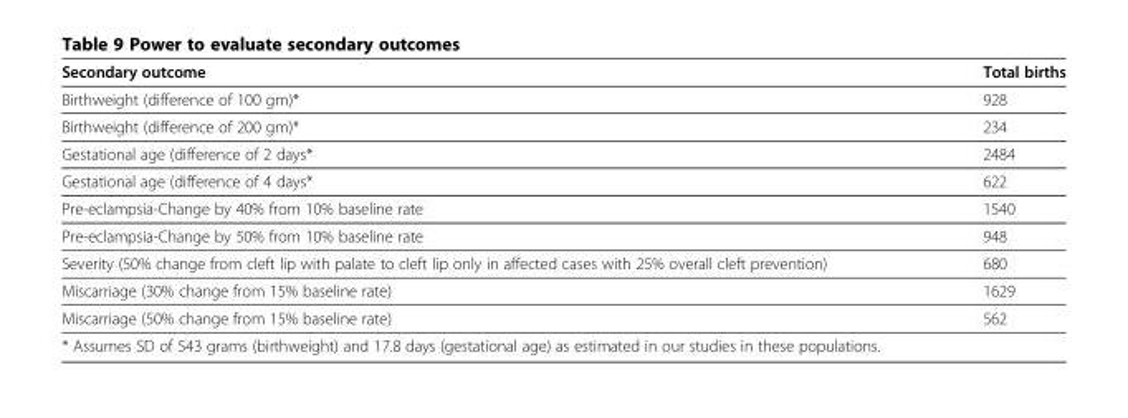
<table><thead><tr><td>Secondary outcome</td><td>Total births</td></tr></thead><tbody><tr><td>Birthweight (difference of 100 gm)*</td><td>928</td></tr><tr><td>Birthweight (difference of 200 gm)*</td><td>234</td></tr><tr><td>Gestational age (difference of 2 days*</td><td>2484</td></tr><tr><td>Gestational age (difference of 4 days*</td><td>622</td></tr><tr><td>Pre-eclampsia-Change by 40% from 10% baseline rate</td><td>1540</td></tr><tr><td>Pre-eclampsia-Change by 50% from 10% baseline rate</td><td>948</td></tr><tr><td>Severity (50% change from cleft lip with palate to cleft lip only in affected cases with 25% overall cleft prevention)</td><td>680</td></tr><tr><td>Miscarriage (30% change from 15% baseline rate)</td><td>1629</td></tr><tr><td>Miscarriage (50% change from 15% baseline rate)</td><td>562</td></tr><tr><td>* Assumes SD of 543 grams (birthweight) and 17.8 days (gestational age) as estimated in our studies in these populations.</td><td></td></tr></tbody></table>